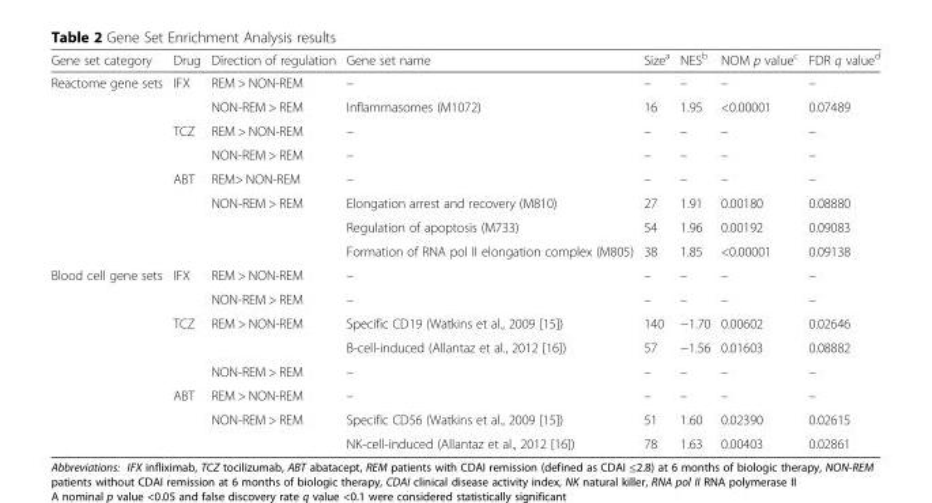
<table><thead><tr><td>Gene set category</td><td>Drug</td><td>Direction of regulation</td><td>Gene set name</td><td>Size<sup>a</sup></td><td>NES<sup>b</sup></td><td>NOM p value<sup>c</sup></td><td>FDR q value<sup>d</sup></td></tr></thead><tbody><tr><td rowspan="8">Reactome gene sets</td><td rowspan="2">IFX</td><td>REM &gt; NON-REM</td><td>–</td><td>–</td><td>–</td><td>–</td><td>–</td></tr><tr><td>NON-REM &gt; REM</td><td>Inflammasomes (M1072)</td><td>16</td><td>1.95</td><td>&lt;0.00001</td><td>0.07489</td></tr><tr><td rowspan="2">TCZ</td><td>REM &gt; NON-REM</td><td>–</td><td>–</td><td>–</td><td>–</td><td>–</td></tr><tr><td>NON-REM &gt; REM</td><td>–</td><td>–</td><td>–</td><td>–</td><td>–</td></tr><tr><td rowspan="4">ABT</td><td>REM&gt; NON-REM</td><td>–</td><td>–</td><td>–</td><td>–</td><td>–</td></tr><tr><td rowspan="3">NON-REM &gt; REM</td><td>Elongation arrest and recovery (M810)</td><td>27</td><td>1.91</td><td>0.00180</td><td>0.08880</td></tr><tr><td>Regulation of apoptosis (M733)</td><td>54</td><td>1.96</td><td>0.00192</td><td>0.09083</td></tr><tr><td>Formation of RNA pol II elongation complex (M805)</td><td>38</td><td>1.85</td><td>&lt;0.00001</td><td>0.09138</td></tr><tr><td rowspan="8">Blood cell gene sets</td><td rowspan="2">IFX</td><td>REM &gt; NON-REM</td><td>–</td><td>–</td><td>–</td><td>–</td><td>–</td></tr><tr><td>NON-REM &gt; REM</td><td>–</td><td>–</td><td>–</td><td>–</td><td>–</td></tr><tr><td rowspan="3">TCZ</td><td rowspan="2">REM &gt; NON-REM</td><td>Specific CD19 (Watkins et al., 2009 [15])</td><td>140</td><td>−1.70</td><td>0.00602</td><td>0.02646</td></tr><tr><td>B-cell-induced (Allantaz et al., 2012 [16])</td><td>57</td><td>−1.56</td><td>0.01603</td><td>0.08882</td></tr><tr><td>NON-REM &gt; REM</td><td>–</td><td>–</td><td>–</td><td>–</td><td>–</td></tr><tr><td rowspan="3">ABT</td><td>REM &gt; NON-REM</td><td>–</td><td>–</td><td>–</td><td>–</td><td>–</td></tr><tr><td rowspan="2">NON-REM &gt; REM</td><td>Specific CD56 (Watkins et al., 2009 [15])</td><td>51</td><td>1.60</td><td>0.02390</td><td>0.02615</td></tr><tr><td>NK-cell-induced (Allantaz et al., 2012 [16])</td><td>78</td><td>1.63</td><td>0.00403</td><td>0.02861</td></tr></tbody></table>